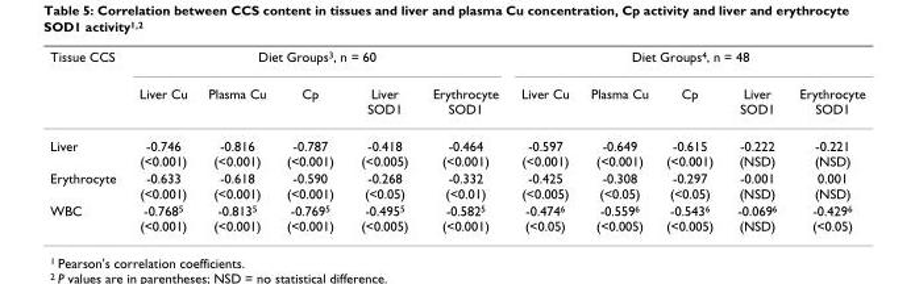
<table><thead><tr><td rowspan="2">Tissue CCS</td><td colspan="5">Diet Groups<sup>3</sup>, n = 60</td><td colspan="5">Diet Groups<sup>4</sup>, n = 48</td></tr><tr><td>Liver Cu</td><td>Plasma Cu</td><td>Cp</td><td>Liver SOD1</td><td>Erythrocyte SOD1</td><td>Liver Cu</td><td>Plasma Cu</td><td>Cp</td><td>Liver SOD1</td><td>Erythrocyte SOD1</td></tr></thead><tbody><tr><td>Liver</td><td>-0.746 (&lt;0.001)</td><td>-0.816 (&lt;0.001)</td><td>-0.787 (&lt;0.001)</td><td>-0.418 (&lt;0.005)</td><td>-0.464 (&lt;0.001)</td><td>-0.597 (&lt;0.001)</td><td>-0.649 (&lt;0.001)</td><td>-0.615 (&lt;0.001)</td><td>-0.222 (NSD)</td><td>-0.221 (NSD)</td></tr><tr><td>Erythrocyte</td><td>-0.633 (&lt;0.001)</td><td>-0.618 (&lt;0.001)</td><td>-0.590 (&lt;0.001)</td><td>-0.268 (&lt;0.05)</td><td>-0.332 (&lt;0.01)</td><td>-0.425 (&lt;0.005)</td><td>-0.308 (&lt;0.05)</td><td>-0.297 (&lt;0.05)</td><td>-0.001 (NSD)</td><td>0.001 (NSD)</td></tr><tr><td>WBC</td><td>-0.768<sup>5</sup> (&lt;0.001)</td><td>-0.813<sup>5</sup> (&lt;0.001)</td><td>-0.769<sup>5</sup> (&lt;0.001)</td><td>-0.495<sup>5</sup> (&lt;0.005)</td><td>-0.582<sup>5</sup> (&lt;0.001)</td><td>-0.474<sup>6</sup> (&lt;0.05)</td><td>-0.559<sup>6</sup> (&lt;0.005)</td><td>-0.543<sup>6</sup> (&lt;0.005)</td><td>-0.069<sup>6</sup> (NSD)</td><td>-0.429<sup>6</sup> (&lt;0.05)</td></tr></tbody></table>